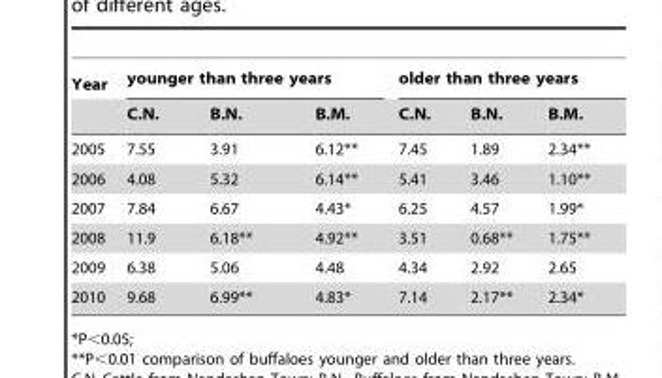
<table><thead><tr><td rowspan="2">Year</td><td colspan="3">younger than three years</td><td colspan="3">older than three years</td></tr><tr><td>C.N.</td><td>B.N.</td><td>B.M.</td><td>C.N.</td><td>B.N.</td><td>B.M.</td></tr></thead><tbody><tr><td>2005</td><td>7.55</td><td>3.91</td><td>6.12**</td><td>7.45</td><td>1.89</td><td>2.34**</td></tr><tr><td>2006</td><td>4.08</td><td>5.32</td><td>6.14**</td><td>5.41</td><td>3.46</td><td>1.10**</td></tr><tr><td>2007</td><td>7.84</td><td>6.67</td><td>4.43*</td><td>6.25</td><td>4.57</td><td>1.99*</td></tr><tr><td>2008</td><td>11.9</td><td>6.18**</td><td>4.92**</td><td>3.51</td><td>0.68**</td><td>1.75**</td></tr><tr><td>2009</td><td>6.38</td><td>5.06</td><td>4.48</td><td>4.34</td><td>2.92</td><td>2.65</td></tr><tr><td>2010</td><td>9.68</td><td>6.99**</td><td>4.83*</td><td>7.14</td><td>2.17**</td><td>2.34*</td></tr></tbody></table>